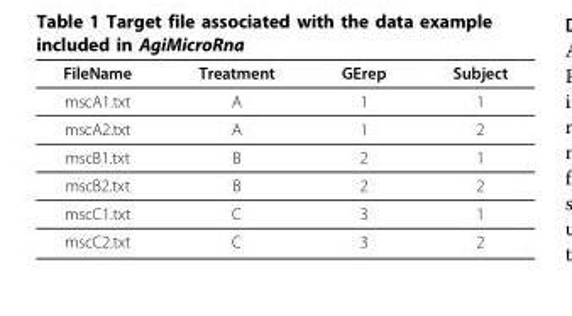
<table><thead><tr><td>FileName</td><td>Treatment</td><td>GErep</td><td>Subject</td></tr></thead><tbody><tr><td>mscA1.txt</td><td>A</td><td>1</td><td>1</td></tr><tr><td>mscA2.txt</td><td>A</td><td>1</td><td>2</td></tr><tr><td>mscB1.txt</td><td>B</td><td>2</td><td>1</td></tr><tr><td>mscB2.txt</td><td>B</td><td>2</td><td>2</td></tr><tr><td>mscC1.txt</td><td>C</td><td>3</td><td>1</td></tr><tr><td>mscC2.txt</td><td>C</td><td>3</td><td>2</td></tr></tbody></table>